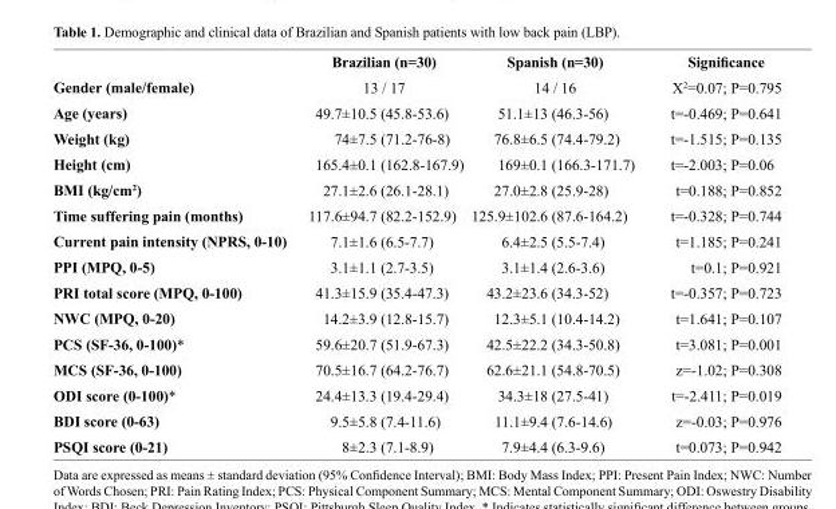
<table><thead><tr><td></td><td>Brazilian (n=30)</td><td>Spanish (n=30)</td><td>Significance</td></tr></thead><tbody><tr><td>Gender (male/female)</td><td>13 / 17</td><td>14 / 16</td><td>X<sup>2</sup>=0.07; P=0.795</td></tr><tr><td>Age (years)</td><td>49.7±10.5 (45.8-53.6)</td><td>51.1±13 (46.3-56)</td><td>t=-0.469; P=0.641</td></tr><tr><td>Weight (kg)</td><td>74±7.5 (71.2-76-8)</td><td>76.8±6.5 (74.4-79.2)</td><td>t=-1.515; P=0.135</td></tr><tr><td>Height (cm)</td><td>165.4±0.1 (162.8-167.9)</td><td>169±0.1 (166.3-171.7)</td><td>t=-2.003; P=0.06</td></tr><tr><td>BMI (kg/cm<sup>2</sup>)</td><td>27.1±2.6 (26.1-28.1)</td><td>27.0±2.8 (25.9-28)</td><td>t=0.188; P=0.852</td></tr><tr><td>Time suffering pain (months)</td><td>117.6±94.7 (82.2-152.9)</td><td>125.9±102.6 (87.6-164.2)</td><td>t=-0.328; P=0.744</td></tr><tr><td>Current pain intensity (NPRS, 0-10)</td><td>7.1±1.6 (6.5-7.7)</td><td>6.4±2.5 (5.5-7.4)</td><td>t=1.185; P=0.241</td></tr><tr><td>PPI (MPQ, 0-5)</td><td>3.1±1.1 (2.7-3.5)</td><td>3.1±1.4 (2.6-3.6)</td><td>t=0.1; P=0.921</td></tr><tr><td>PRI total score (MPQ, 0-100)</td><td>41.3±15.9 (35.4-47.3)</td><td>43.2±23.6 (34.3-52)</td><td>t=-0.357; P=0.723</td></tr><tr><td>NWC (MPQ, 0-20)</td><td>14.2±3.9 (12.8-15.7)</td><td>12.3±5.1 (10.4-14.2)</td><td>t=1.641; P=0.107</td></tr><tr><td>PCS (SF-36, 0-100)*</td><td>59.6±20.7 (51.9-67.3)</td><td>42.5±22.2 (34.3-50.8)</td><td>t=3.081; P=0.001</td></tr><tr><td>MCS (SF-36, 0-100)</td><td>70.5±16.7 (64.2-76.7)</td><td>62.6±21.1 (54.8-70.5)</td><td>z=-1.02; P=0.308</td></tr><tr><td>ODI score (0-100)*</td><td>24.4±13.3 (19.4-29.4)</td><td>34.3±18 (27.5-41)</td><td>t=-2.411; P=0.019</td></tr><tr><td>BDI score (0-63)</td><td>9.5±5.8 (7.4-11.6)</td><td>11.1±9.4 (7.6-14.6)</td><td>z=-0.03; P=0.976</td></tr><tr><td>PSQI score (0-21)</td><td>8±2.3 (7.1-8.9)</td><td>7.9±4.4 (6.3-9.6)</td><td>t=0.073; P=0.942</td></tr></tbody></table>